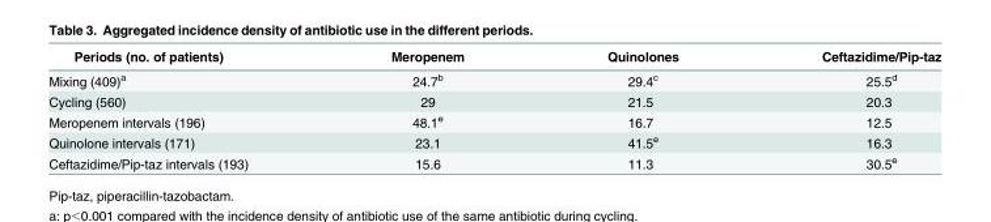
<table><thead><tr><td>Periods (no. of patients)</td><td>Meropenem</td><td>Quinolones</td><td>Ceftazidime/Pip-taz</td></tr></thead><tbody><tr><td>Mixing (409)<sup>a</sup></td><td>24.7<sup>b</sup></td><td>29.4<sup>c</sup></td><td>25.5<sup>d</sup></td></tr><tr><td>Cycling (560)</td><td>29</td><td>21.5</td><td>20.3</td></tr><tr><td>Meropenem intervals (196)</td><td>48.1<sup>e</sup></td><td>16.7</td><td>12.5</td></tr><tr><td>Quinolone intervals (171)</td><td>23.1</td><td>41.5<sup>e</sup></td><td>16.3</td></tr><tr><td>Ceftazidime/Pip-taz intervals (193)</td><td>15.6</td><td>11.3</td><td>30.5<sup>e</sup></td></tr></tbody></table>